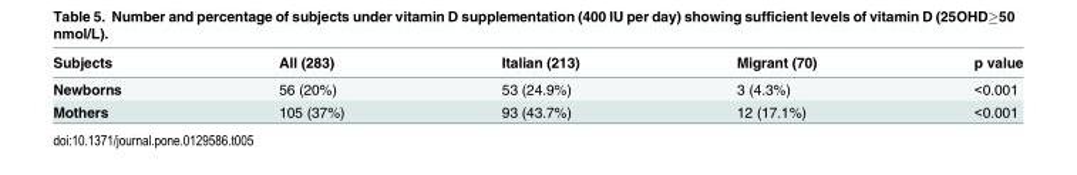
<table><thead><tr><td>Subjects</td><td>All (283)</td><td>Italian (213)</td><td>Migrant (70)</td><td>p value</td></tr></thead><tbody><tr><td>Newborns</td><td>56 (20%)</td><td>53 (24.9%)</td><td>3 (4.3%)</td><td>&lt;0.001</td></tr><tr><td>Mothers</td><td>105 (37%)</td><td>93 (43.7%)</td><td>12 (17.1%)</td><td>&lt;0.001</td></tr></tbody></table>